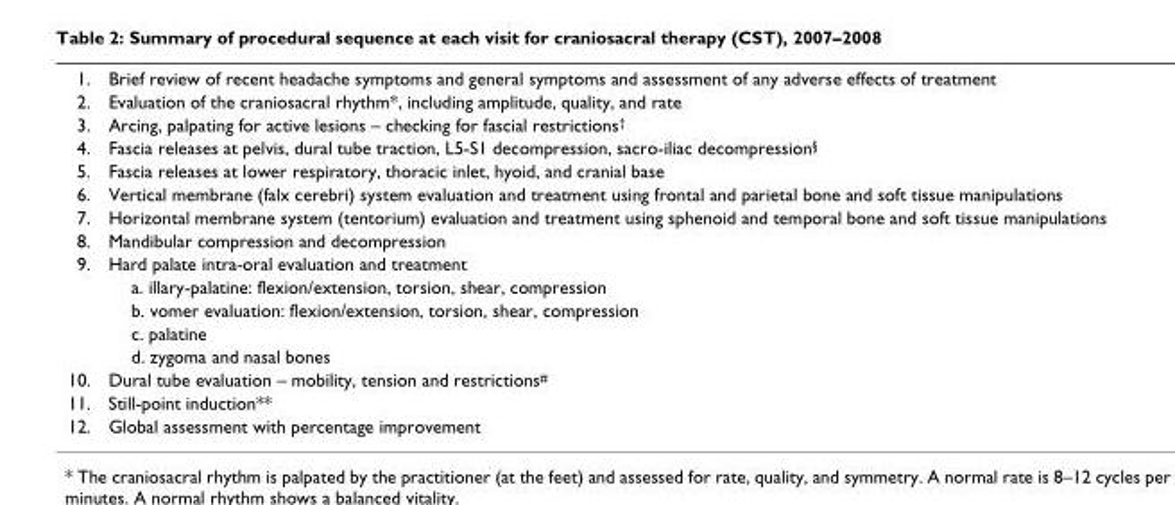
<table><tbody><tr><td>1.</td><td>Brief review of recent headache symptoms and general symptoms and assessment of any adverse effects of treatment</td></tr><tr><td>2.</td><td>Evaluation of the craniosacral rhythm*, including amplitude, quality, and rate</td></tr><tr><td>3.</td><td>Arcing, palpating for active lesions – checking for fascial restrictions<sup>†</sup></td></tr><tr><td>4.</td><td>Fascia releases at pelvis, dural tube traction, L5-S1 decompression, sacro-iliac decompression<sup>§</sup></td></tr><tr><td>5.</td><td>Fascia releases at lower respiratory, thoracic inlet, hyoid, and cranial base</td></tr><tr><td>6.</td><td>Vertical membrane (falx cerebri) system evaluation and treatment using frontal and parietal bone and soft tissue manipulations</td></tr><tr><td>7.</td><td>Horizontal membrane system (tentorium) evaluation and treatment using sphenoid and temporal bone and soft tissue manipulations</td></tr><tr><td>8.</td><td>Mandibular compression and decompression</td></tr><tr><td rowspan="5">9.</td><td>Hard palate intra-oral evaluation and treatment</td></tr><tr><td>a. illary-palatine: flexion/extension, torsion, shear, compression</td></tr><tr><td>b. vomer evaluation: flexion/extension, torsion, shear, compression</td></tr><tr><td>c. palatine</td></tr><tr><td>d. zygoma and nasal bones</td></tr><tr><td>10.</td><td>Dural tube evaluation – mobility, tension and restrictions<sup>#</sup></td></tr><tr><td>11.</td><td>Still-point induction**</td></tr><tr><td>12.</td><td>Global assessment with percentage improvement</td></tr></tbody></table>